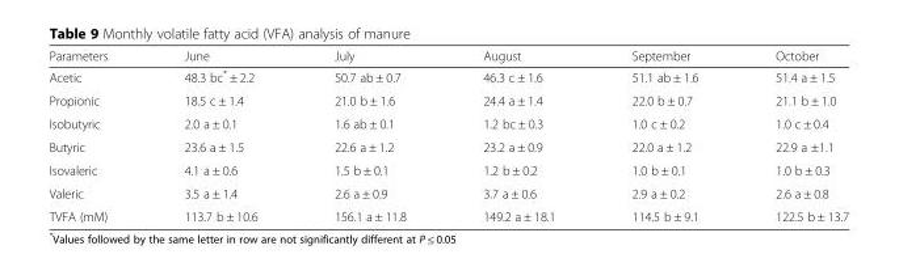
<table><thead><tr><td>Parameters</td><td>June</td><td>July</td><td>August</td><td>September</td><td>October</td></tr></thead><tbody><tr><td>Acetic</td><td>48.3 bc* ± 2.2</td><td>50.7 ab ± 0.7</td><td>46.3 c ± 1.6</td><td>51.1 ab ± 1.6</td><td>51.4 a ± 1.5</td></tr><tr><td>Propionic</td><td>18.5 c ± 1.4</td><td>21.0 b ± 1.6</td><td>24.4 a ± 1.4</td><td>22.0 b ± 0.7</td><td>21.1 b ± 1.0</td></tr><tr><td>Isobutyric</td><td>2.0 a ± 0.1</td><td>1.6 ab ± 0.1</td><td>1.2 bc ± 0.3</td><td>1.0 c ± 0.2</td><td>1.0 c ± 0.4</td></tr><tr><td>Butyric</td><td>23.6 a ± 1.5</td><td>22.6 a ± 1.2</td><td>23.2 a ± 0.9</td><td>22.0 a ± 1.2</td><td>22.9 a ±1.1</td></tr><tr><td>Isovaleric</td><td>4.1 a ± 0.6</td><td>1.5 b ± 0.1</td><td>1.2 b ± 0.2</td><td>1.0 b ± 0.1</td><td>1.0 b ± 0.3</td></tr><tr><td>Valeric</td><td>3.5 a ± 1.4</td><td>2.6 a ± 0.9</td><td>3.7 a ± 0.6</td><td>2.9 a ± 0.2</td><td>2.6 a ± 0.8</td></tr><tr><td>TVFA (mM)</td><td>113.7 b ± 10.6</td><td>156.1 a ± 11.8</td><td>149.2 a ± 18.1</td><td>114.5 b ± 9.1</td><td>122.5 b ± 13.7</td></tr></tbody></table>